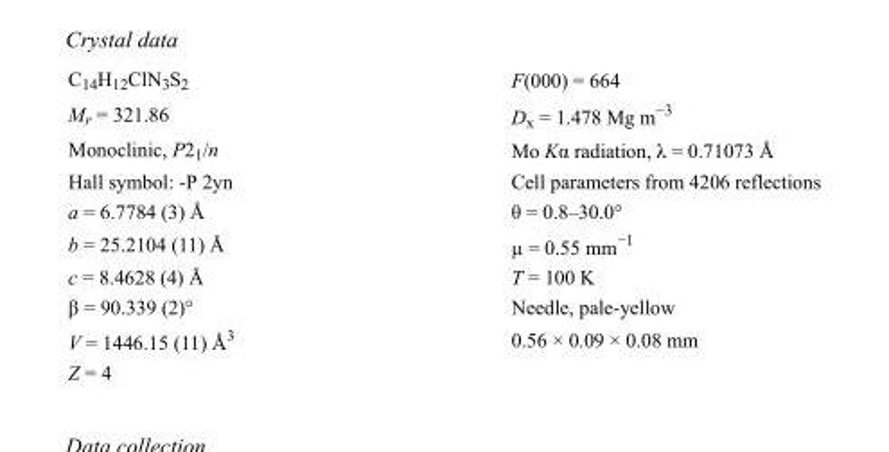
<table><tbody><tr><td>C<sub>14</sub>H<sub>12</sub>ClN<sub>3</sub>S<sub>2</sub></td><td>F(000) = 664</td></tr><tr><td>M<sub>r</sub> = 321.86</td><td>D<sub>x</sub> = 1.478 Mg m<sup>−3</sup></td></tr><tr><td>Monoclinic, P2<sub>1</sub>/n</td><td>Mo Kα radiation, λ = 0.71073 Å</td></tr><tr><td>Hall symbol: -P 2yn</td><td>Cell parameters from 4206 reflections</td></tr><tr><td>a = 6.7784 (3) Å</td><td>θ = 0.8–30.0°</td></tr><tr><td>b = 25.2104 (11) Å</td><td>µ = 0.55 mm<sup>−1</sup></td></tr><tr><td>c = 8.4628 (4) Å</td><td>T = 100 K</td></tr><tr><td>β = 90.339 (2)°</td><td>Needle, pale-yellow</td></tr><tr><td>V = 1446.15 (11) Å<sup>3</sup></td><td>0.56 × 0.09 × 0.08 mm</td></tr><tr><td>Z = 4</td><td></td></tr></tbody></table>